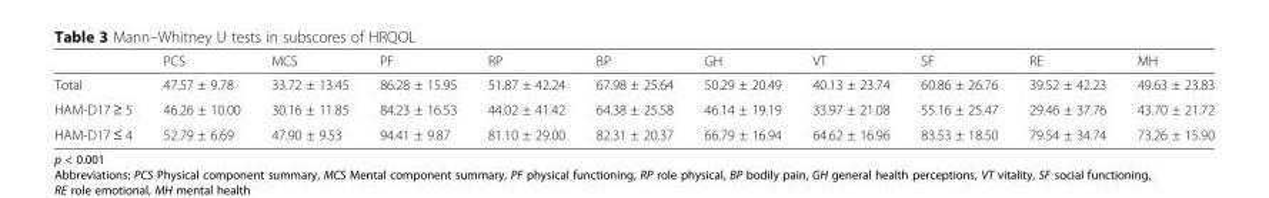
<table><thead><tr><td></td><td>PCS</td><td>MCS</td><td>PF</td><td>RP</td><td>BP</td><td>GH</td><td>VT</td><td>SF</td><td>RE</td><td>MH</td></tr></thead><tbody><tr><td>Total</td><td>47.57 ± 9.78</td><td>33.72 ± 13.45</td><td>86.28 ± 15.95</td><td>51.87 ± 42.24</td><td>67.98 ± 25.64</td><td>50.29 ± 20.49</td><td>40.13 ± 23.74</td><td>60.86 ± 26.76</td><td>39.52 ± 42.23</td><td>49.63 ± 23.83</td></tr><tr><td>HAM-D17 ≥ 5</td><td>46.26 ± 10.00</td><td>30.16 ± 11.85</td><td>84.23 ± 16.53</td><td>44.02 ± 41.42</td><td>64.38 ± 25.58</td><td>46.14 ± 19.19</td><td>33.97 ± 21.08</td><td>55.16 ± 25.47</td><td>29.46 ± 37.76</td><td>43.70 ± 21.72</td></tr><tr><td>HAM-D17 ≤ 4</td><td>52.79 ± 6.69</td><td>47.90 ± 9.53</td><td>94.41 ± 9.87</td><td>81.10 ± 29.00</td><td>82.31 ± 20.37</td><td>66.79 ± 16.94</td><td>64.62 ± 16.96</td><td>83.53 ± 18.50</td><td>79.54 ± 34.74</td><td>73.26 ± 15.90</td></tr></tbody></table>